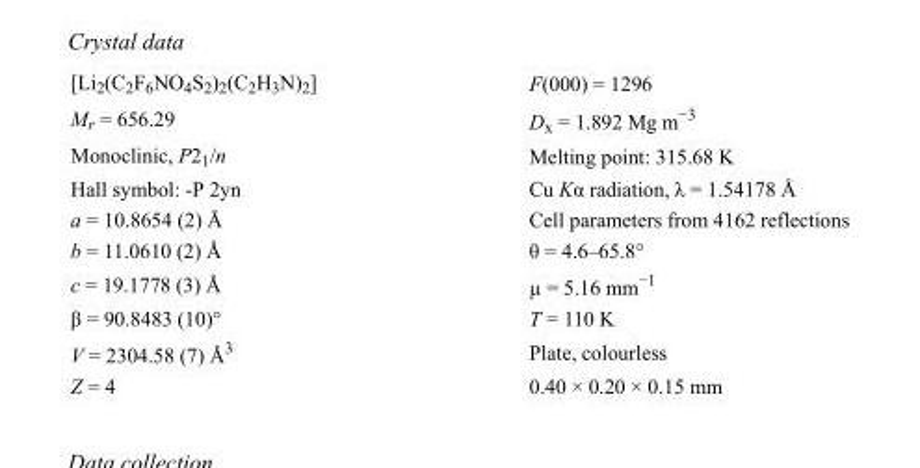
<table><tbody><tr><td>[Li<sub>2</sub>(C<sub>2</sub>F<sub>6</sub>NO<sub>4</sub>S<sub>2</sub>)<sub>2</sub>(C<sub>2</sub>H<sub>3</sub>N)<sub>2</sub>]</td><td>F(000) = 1296</td></tr><tr><td>M<sub>r</sub> = 656.29</td><td>D<sub>x</sub> = 1.892 Mg m<sup>−3</sup></td></tr><tr><td>Monoclinic, P2<sub>1</sub>/n</td><td>Melting point: 315.68 K</td></tr><tr><td>Hall symbol: -P 2yn</td><td>Cu Kα radiation, λ = 1.54178 Å</td></tr><tr><td>a = 10.8654 (2) Å</td><td>Cell parameters from 4162 reflections</td></tr><tr><td>b = 11.0610 (2) Å</td><td>θ = 4.6–65.8°</td></tr><tr><td>c = 19.1778 (3) Å</td><td>µ = 5.16 mm<sup>−1</sup></td></tr><tr><td>β = 90.8483 (10)°</td><td>T = 110 K</td></tr><tr><td>V = 2304.58 (7) Å<sup>3</sup></td><td>Plate, colourless</td></tr><tr><td>Z = 4</td><td>0.40 × 0.20 × 0.15 mm</td></tr></tbody></table>